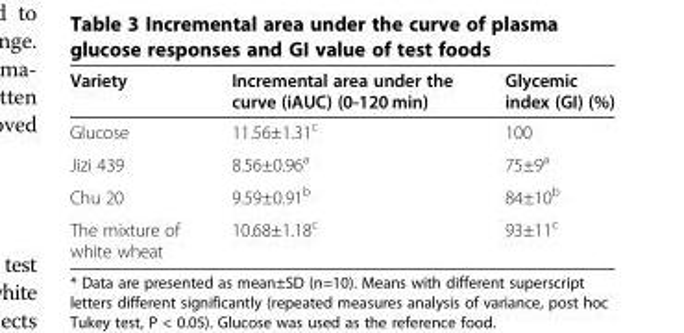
<table><thead><tr><td>Variety</td><td>Incremental area under the curve (iAUC) (0-120 min)</td><td>Glycemic index (GI) (%)</td></tr></thead><tbody><tr><td>Glucose</td><td>11.56±1.31<sup>c</sup></td><td>100</td></tr><tr><td>Jizi 439</td><td>8.56±0.96<sup>a</sup></td><td>75±9<sup>a</sup></td></tr><tr><td>Chu 20</td><td>9.59±0.91<sup>b</sup></td><td>84±10<sup>b</sup></td></tr><tr><td>The mixture of white wheat</td><td>10.68±1.18<sup>c</sup></td><td>93±11<sup>c</sup></td></tr></tbody></table>